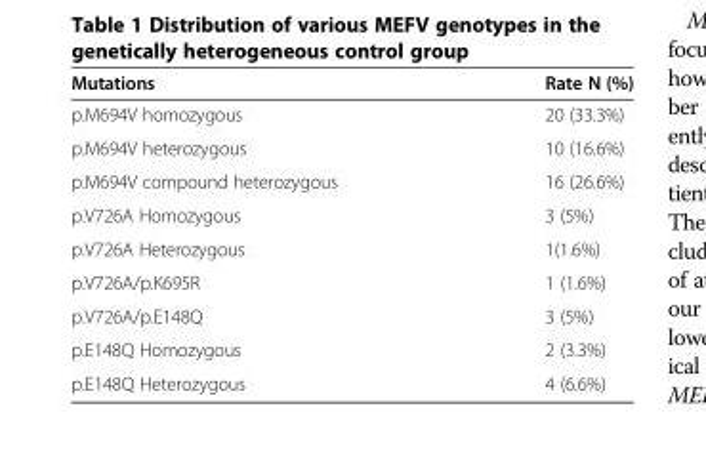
<table><thead><tr><td>Mutations</td><td>Rate N (%)</td></tr></thead><tbody><tr><td>p.M694V homozygous</td><td>20 (33.3%)</td></tr><tr><td>p.M694V heterozygous</td><td>10 (16.6%)</td></tr><tr><td>p.M694V compound heterozygous</td><td>16 (26.6%)</td></tr><tr><td>p.V726A Homozygous</td><td>3 (5%)</td></tr><tr><td>p.V726A Heterozygous</td><td>1(1.6%)</td></tr><tr><td>p.V726A/p.K695R</td><td>1 (1.6%)</td></tr><tr><td>p.V726A/p.E148Q</td><td>3 (5%)</td></tr><tr><td>p.E148Q Homozygous</td><td>2 (3.3%)</td></tr><tr><td>p.E148Q Heterozygous</td><td>4 (6.6%)</td></tr></tbody></table>